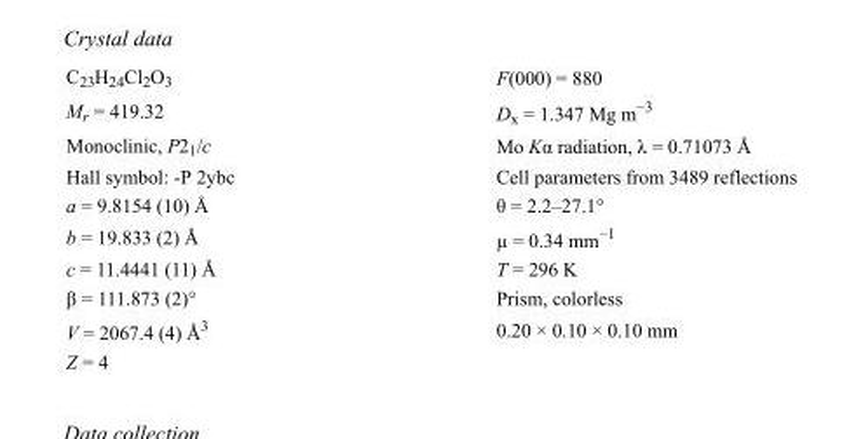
<table><tbody><tr><td>C<sub>23</sub>H<sub>24</sub>Cl<sub>2</sub>O<sub>3</sub></td><td>F(000) = 880</td></tr><tr><td>M<sub>r</sub> = 419.32</td><td>D<sub>x</sub> = 1.347 Mg m<sup>−3</sup></td></tr><tr><td>Monoclinic, P2<sub>1</sub>/c</td><td>Mo Kα radiation, λ = 0.71073 Å</td></tr><tr><td>Hall symbol: -P 2ybc</td><td>Cell parameters from 3489 reflections</td></tr><tr><td>a = 9.8154 (10) Å</td><td>θ = 2.2–27.1°</td></tr><tr><td>b = 19.833 (2) Å</td><td>µ = 0.34 mm<sup>−1</sup></td></tr><tr><td>c = 11.4441 (11) Å</td><td>T = 296 K</td></tr><tr><td>β = 111.873 (2)°</td><td>Prism, colorless</td></tr><tr><td>V = 2067.4 (4) Å<sup>3</sup></td><td>0.20 × 0.10 × 0.10 mm</td></tr><tr><td>Z = 4</td><td></td></tr></tbody></table>